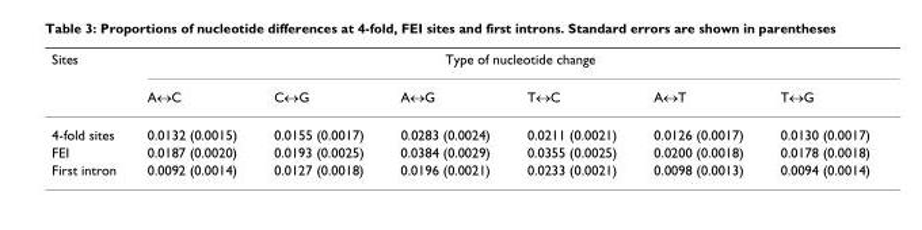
<table><thead><tr><td rowspan="2">Sites</td><td colspan="6">Type of nucleotide change</td></tr><tr><td>A↔C</td><td>C↔G</td><td>A↔G</td><td>T↔C</td><td>A↔T</td><td>T↔G</td></tr></thead><tbody><tr><td>4-fold sites</td><td>0.0132 (0.0015)</td><td>0.0155 (0.0017)</td><td>0.0283 (0.0024)</td><td>0.0211 (0.0021)</td><td>0.0126 (0.0017)</td><td>0.0130 (0.0017)</td></tr><tr><td>FEI</td><td>0.0187 (0.0020)</td><td>0.0193 (0.0025)</td><td>0.0384 (0.0029)</td><td>0.0355 (0.0025)</td><td>0.0200 (0.0018)</td><td>0.0178 (0.0018)</td></tr><tr><td>First intron</td><td>0.0092 (0.0014)</td><td>0.0127 (0.0018)</td><td>0.0196 (0.0021)</td><td>0.0233 (0.0021)</td><td>0.0098 (0.0013)</td><td>0.0094 (0.0014)</td></tr></tbody></table>